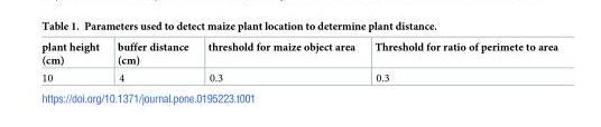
<table><thead><tr><td>plant height (cm)</td><td>buffer distance (cm)</td><td>threshold for maize object area</td><td>Threshold for ratio of perimete to area</td></tr></thead><tbody><tr><td>10</td><td>4</td><td>0.3</td><td>0.3</td></tr></tbody></table>